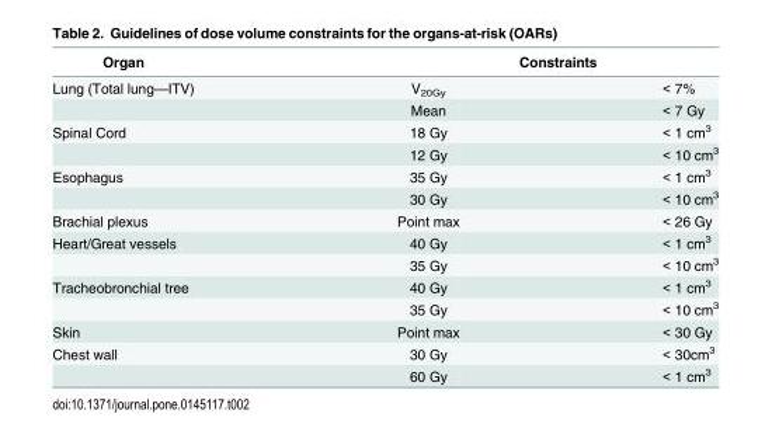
<table><thead><tr><td rowspan="2">Organ Lung (Total lung—ITV)</td><td colspan="2">Constraints</td></tr><tr><td>V<sub>20Gy</sub></td><td>&lt; 7%</td></tr></thead><tbody><tr><td></td><td>Mean</td><td>&lt; 7 Gy</td></tr><tr><td rowspan="2">Spinal Cord</td><td>18 Gy</td><td>&lt; 1 cm<sup>3</sup></td></tr><tr><td>12 Gy</td><td>&lt; 10 cm<sup>3</sup></td></tr><tr><td rowspan="2">Esophagus</td><td>35 Gy</td><td>&lt; 1 cm<sup>3</sup></td></tr><tr><td>30 Gy</td><td>&lt; 10 cm<sup>3</sup></td></tr><tr><td>Brachial plexus</td><td>Point max</td><td>&lt; 26 Gy</td></tr><tr><td rowspan="2">Heart/Great vessels</td><td>40 Gy</td><td>&lt; 1 cm<sup>3</sup></td></tr><tr><td>35 Gy</td><td>&lt; 10 cm<sup>3</sup></td></tr><tr><td rowspan="2">Tracheobronchial tree</td><td>40 Gy</td><td>&lt; 1 cm<sup>3</sup></td></tr><tr><td>35 Gy</td><td>&lt; 10 cm<sup>3</sup></td></tr><tr><td>Skin</td><td>Point max</td><td>&lt; 30 Gy</td></tr><tr><td rowspan="2">Chest wall</td><td>30 Gy</td><td>&lt; 30cm<sup>3</sup></td></tr><tr><td>60 Gy</td><td>&lt; 1 cm<sup>3</sup></td></tr></tbody></table>